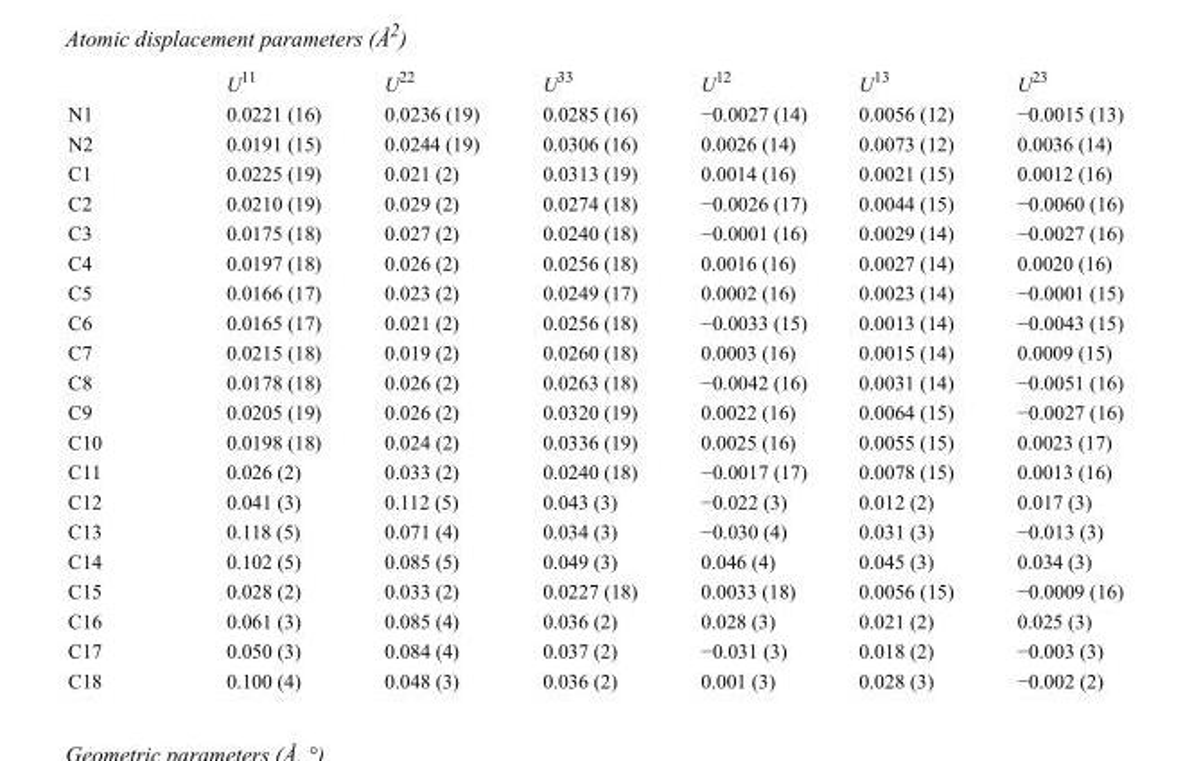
<table><thead><tr><td></td><td>U<sup>11</sup></td><td>U<sup>22</sup></td><td>U<sup>33</sup></td><td>U<sup>12</sup></td><td>U<sup>13</sup></td><td>U<sup>23</sup></td></tr></thead><tbody><tr><td>N1</td><td>0.0221 (16)</td><td>0.0236 (19)</td><td>0.0285 (16)</td><td>−0.0027 (14)</td><td>0.0056 (12)</td><td>−0.0015 (13)</td></tr><tr><td>N2</td><td>0.0191 (15)</td><td>0.0244 (19)</td><td>0.0306 (16)</td><td>0.0026 (14)</td><td>0.0073 (12)</td><td>0.0036 (14)</td></tr><tr><td>C1</td><td>0.0225 (19)</td><td>0.021 (2)</td><td>0.0313 (19)</td><td>0.0014 (16)</td><td>0.0021 (15)</td><td>0.0012 (16)</td></tr><tr><td>C2</td><td>0.0210 (19)</td><td>0.029 (2)</td><td>0.0274 (18)</td><td>−0.0026 (17)</td><td>0.0044 (15)</td><td>−0.0060 (16)</td></tr><tr><td>C3</td><td>0.0175 (18)</td><td>0.027 (2)</td><td>0.0240 (18)</td><td>−0.0001 (16)</td><td>0.0029 (14)</td><td>−0.0027 (16)</td></tr><tr><td>C4</td><td>0.0197 (18)</td><td>0.026 (2)</td><td>0.0256 (18)</td><td>0.0016 (16)</td><td>0.0027 (14)</td><td>0.0020 (16)</td></tr><tr><td>C5</td><td>0.0166 (17)</td><td>0.023 (2)</td><td>0.0249 (17)</td><td>0.0002 (16)</td><td>0.0023 (14)</td><td>−0.0001 (15)</td></tr><tr><td>C6</td><td>0.0165 (17)</td><td>0.021 (2)</td><td>0.0256 (18)</td><td>−0.0033 (15)</td><td>0.0013 (14)</td><td>−0.0043 (15)</td></tr><tr><td>C7</td><td>0.0215 (18)</td><td>0.019 (2)</td><td>0.0260 (18)</td><td>0.0003 (16)</td><td>0.0015 (14)</td><td>0.0009 (15)</td></tr><tr><td>C8</td><td>0.0178 (18)</td><td>0.026 (2)</td><td>0.0263 (18)</td><td>−0.0042 (16)</td><td>0.0031 (14)</td><td>−0.0051 (16)</td></tr><tr><td>C9</td><td>0.0205 (19)</td><td>0.026 (2)</td><td>0.0320 (19)</td><td>0.0022 (16)</td><td>0.0064 (15)</td><td>−0.0027 (16)</td></tr><tr><td>C10</td><td>0.0198 (18)</td><td>0.024 (2)</td><td>0.0336 (19)</td><td>0.0025 (16)</td><td>0.0055 (15)</td><td>0.0023 (17)</td></tr><tr><td>C11</td><td>0.026 (2)</td><td>0.033 (2)</td><td>0.0240 (18)</td><td>−0.0017 (17)</td><td>0.0078 (15)</td><td>0.0013 (16)</td></tr><tr><td>C12</td><td>0.041 (3)</td><td>0.112 (5)</td><td>0.043 (3)</td><td>−0.022 (3)</td><td>0.012 (2)</td><td>0.017 (3)</td></tr><tr><td>C13</td><td>0.118 (5)</td><td>0.071 (4)</td><td>0.034 (3)</td><td>−0.030 (4)</td><td>0.031 (3)</td><td>−0.013 (3)</td></tr><tr><td>C14</td><td>0.102 (5)</td><td>0.085 (5)</td><td>0.049 (3)</td><td>0.046 (4)</td><td>0.045 (3)</td><td>0.034 (3)</td></tr><tr><td>C15</td><td>0.028 (2)</td><td>0.033 (2)</td><td>0.0227 (18)</td><td>0.0033 (18)</td><td>0.0056 (15)</td><td>−0.0009 (16)</td></tr><tr><td>C16</td><td>0.061 (3)</td><td>0.085 (4)</td><td>0.036 (2)</td><td>0.028 (3)</td><td>0.021 (2)</td><td>0.025 (3)</td></tr><tr><td>C17</td><td>0.050 (3)</td><td>0.084 (4)</td><td>0.037 (2)</td><td>−0.031 (3)</td><td>0.018 (2)</td><td>−0.003 (3)</td></tr><tr><td>C18</td><td>0.100 (4)</td><td>0.048 (3)</td><td>0.036 (2)</td><td>0.001 (3)</td><td>0.028 (3)</td><td>−0.002 (2)</td></tr></tbody></table>